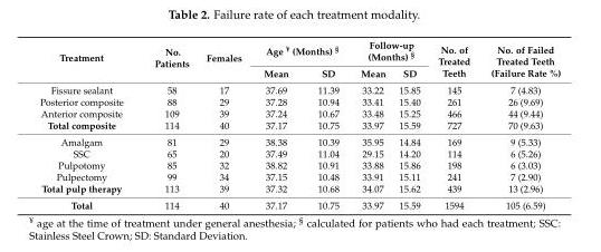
<table><thead><tr><td rowspan="2">Treatment</td><td rowspan="2">No. Patients</td><td rowspan="2">Females</td><td colspan="2">Age <sup>¥</sup> (Months) <sup>§</sup></td><td colspan="2">Follow-up (Months) <sup>§</sup></td><td rowspan="2">No. of Treated Teeth</td><td rowspan="2">No. of Failed Treated Teeth (Failure Rate %)</td></tr><tr><td>Mean</td><td>SD</td><td>Mean</td><td>SD</td></tr></thead><tbody><tr><td>Fissure sealant</td><td>58</td><td>17</td><td>37.69</td><td>11.39</td><td>33.22</td><td>15.85</td><td>145</td><td>7 (4.83)</td></tr><tr><td>Posterior composite</td><td>88</td><td>29</td><td>37.28</td><td>10.94</td><td>33.41</td><td>15.40</td><td>261</td><td>26 (9.69)</td></tr><tr><td>Anterior composite</td><td>109</td><td>39</td><td>37.24</td><td>10.67</td><td>33.48</td><td>15.25</td><td>466</td><td>44 (9.44)</td></tr><tr><td>Total composite</td><td>114</td><td>40</td><td>37.17</td><td>10.75</td><td>33.97</td><td>15.59</td><td>727</td><td>70 (9.63)</td></tr><tr><td>Amalgam</td><td>81</td><td>29</td><td>38.38</td><td>10.39</td><td>35.95</td><td>14.84</td><td>169</td><td>9 (5.33)</td></tr><tr><td>SSC</td><td>65</td><td>20</td><td>37.49</td><td>11.04</td><td>29.15</td><td>14.20</td><td>114</td><td>6 (5.26)</td></tr><tr><td>Pulpotomy</td><td>85</td><td>32</td><td>38.82</td><td>10.91</td><td>33.88</td><td>15.86</td><td>198</td><td>6 (3.03)</td></tr><tr><td>Pulpectomy</td><td>99</td><td>34</td><td>37.15</td><td>10.48</td><td>33.91</td><td>15.11</td><td>241</td><td>7 (2.90)</td></tr><tr><td>Total pulp therapy</td><td>113</td><td>39</td><td>37.32</td><td>10.68</td><td>34.07</td><td>15.62</td><td>439</td><td>13 (2.96)</td></tr><tr><td>Total</td><td>114</td><td>40</td><td>37.17</td><td>10.75</td><td>33.97</td><td>15.59</td><td>1594</td><td>105 (6.59)</td></tr></tbody></table>